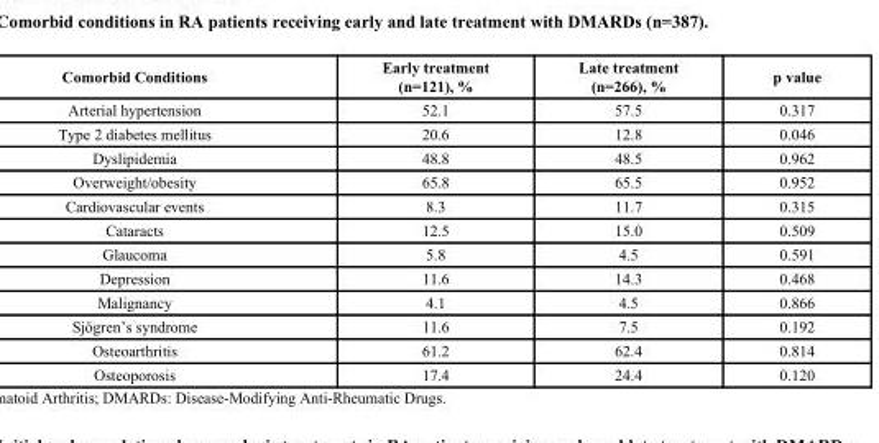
<table><thead><tr><td>Comorbid Conditions</td><td>Early treatment (n=121), %</td><td>Late treatment (n=266), %</td><td>p value</td></tr></thead><tbody><tr><td>Arterial hypertension</td><td>52.1</td><td>57.5</td><td>0.317</td></tr><tr><td>Type 2 diabetes mellitus</td><td>20.6</td><td>12.8</td><td>0.046</td></tr><tr><td>Dyslipidemia</td><td>48.8</td><td>48.5</td><td>0.962</td></tr><tr><td>Overweight/obesity</td><td>65.8</td><td>65.5</td><td>0.952</td></tr><tr><td>Cardiovascular events</td><td>8.3</td><td>11.7</td><td>0.315</td></tr><tr><td>Cataracts</td><td>12.5</td><td>15.0</td><td>0.509</td></tr><tr><td>Glaucoma</td><td>5.8</td><td>4.5</td><td>0.591</td></tr><tr><td>Depression</td><td>11.6</td><td>14.3</td><td>0.468</td></tr><tr><td>Malignancy</td><td>4.1</td><td>4.5</td><td>0.866</td></tr><tr><td>Sjögren’s syndrome</td><td>11.6</td><td>7.5</td><td>0.192</td></tr><tr><td>Osteoarthritis</td><td>61.2</td><td>62.4</td><td>0.814</td></tr><tr><td>Osteoporosis</td><td>17.4</td><td>24.4</td><td>0.120</td></tr></tbody></table>